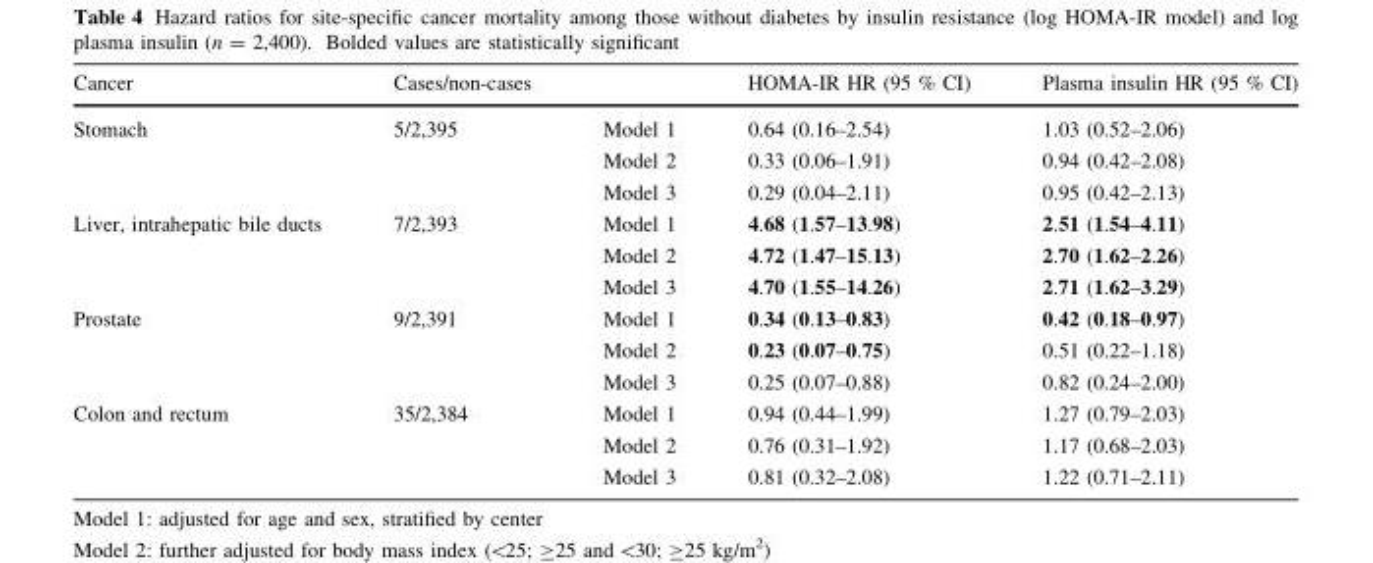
<table><thead><tr><td>Cancer</td><td>Cases/non-cases</td><td></td><td>HOMA-IR HR (95 % CI)</td><td>Plasma insulin HR (95 % CI)</td></tr></thead><tbody><tr><td rowspan="3">Stomach</td><td>5/2,395</td><td>Model 1</td><td>0.64 (0.16–2.54)</td><td>1.03 (0.52–2.06)</td></tr><tr><td></td><td>Model 2</td><td>0.33 (0.06–1.91)</td><td>0.94 (0.42–2.08)</td></tr><tr><td></td><td>Model 3</td><td>0.29 (0.04–2.11)</td><td>0.95 (0.42–2.13)</td></tr><tr><td rowspan="3">Liver, intrahepatic bile ducts</td><td>7/2,393</td><td>Model 1</td><td>4.68 (1.57–13.98)</td><td>2.51 (1.54–4.11)</td></tr><tr><td></td><td>Model 2</td><td>4.72 (1.47–15.13)</td><td>2.70 (1.62–2.26)</td></tr><tr><td></td><td>Model 3</td><td>4.70 (1.55–14.26)</td><td>2.71 (1.62–3.29)</td></tr><tr><td rowspan="3">Prostate</td><td>9/2,391</td><td>Model 1</td><td>0.34 (0.13–0.83)</td><td>0.42 (0.18–0.97)</td></tr><tr><td></td><td>Model 2</td><td>0.23 (0.07–0.75)</td><td>0.51 (0.22–1.18)</td></tr><tr><td></td><td>Model 3</td><td>0.25 (0.07–0.88)</td><td>0.82 (0.24–2.00)</td></tr><tr><td rowspan="3">Colon and rectum</td><td>35/2,384</td><td>Model 1</td><td>0.94 (0.44–1.99)</td><td>1.27 (0.79–2.03)</td></tr><tr><td></td><td>Model 2</td><td>0.76 (0.31–1.92)</td><td>1.17 (0.68–2.03)</td></tr><tr><td></td><td>Model 3</td><td>0.81 (0.32–2.08)</td><td>1.22 (0.71–2.11)</td></tr></tbody></table>